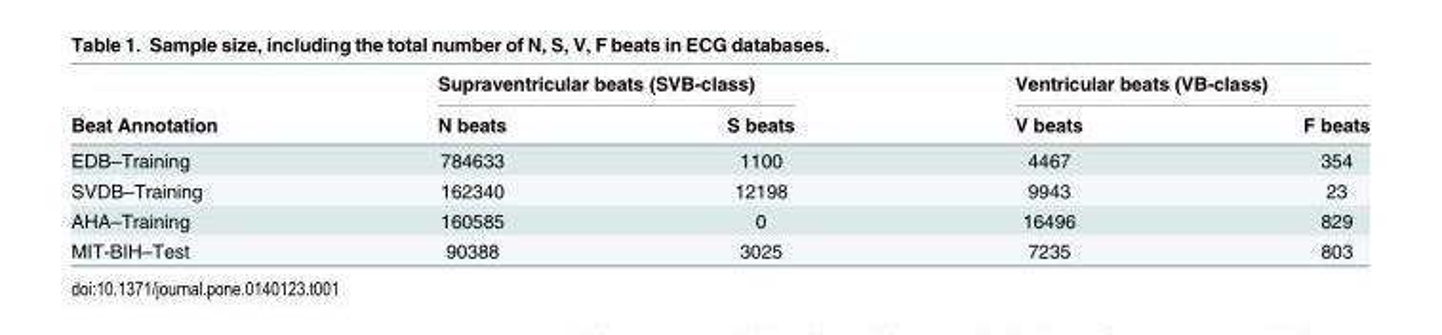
<table><thead><tr><td rowspan="2">Beat Annotation</td><td colspan="2">Supraventricular beats (SVB-class)</td><td colspan="2">Ventricular beats (VB-class)</td></tr><tr><td>N beats</td><td>S beats</td><td>V beats</td><td>F beats</td></tr></thead><tbody><tr><td>EDB–Training</td><td>784633</td><td>1100</td><td>4467</td><td>354</td></tr><tr><td>SVDB–Training</td><td>162340</td><td>12198</td><td>9943</td><td>23</td></tr><tr><td>AHA–Training</td><td>160585</td><td>0</td><td>16496</td><td>829</td></tr><tr><td>MIT-BIH–Test</td><td>90388</td><td>3025</td><td>7235</td><td>803</td></tr></tbody></table>